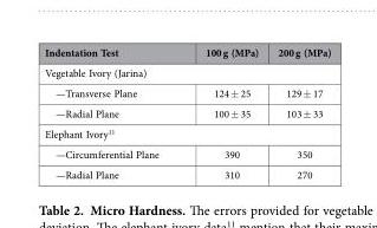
<table><thead><tr><td>Indentation Test</td><td>100 g (MPa)</td><td>200 g (MPa)</td></tr></thead><tbody><tr><td colspan="3">Vegetable Ivory (Jarina)</td></tr><tr><td>—Transverse Plane</td><td>124 ± 25</td><td>129 ± 17</td></tr><tr><td>—Radial Plane</td><td>100 ± 35</td><td>103 ± 33</td></tr><tr><td colspan="3">Elephant Ivory<sup>11</sup></td></tr><tr><td>—Circumferential Plane</td><td>390</td><td>350</td></tr><tr><td>—Radial Plane</td><td>310</td><td>270</td></tr></tbody></table>